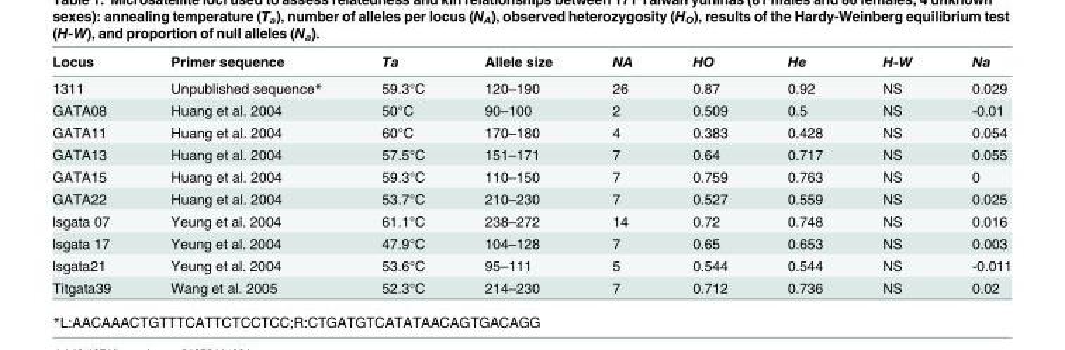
<table><thead><tr><td>Locus</td><td>Primer sequence</td><td>Ta</td><td>Allele size</td><td>NA</td><td>HO</td><td>He</td><td>H-W</td><td>Na</td></tr></thead><tbody><tr><td>1311</td><td>Unpublished sequence*</td><td>59.3°C</td><td>120–190</td><td>26</td><td>0.87</td><td>0.92</td><td>NS</td><td>0.029</td></tr><tr><td>GATA08</td><td>Huang et al. 2004</td><td>50°C</td><td>90–100</td><td>2</td><td>0.509</td><td>0.5</td><td>NS</td><td>-0.01</td></tr><tr><td>GATA11</td><td>Huang et al. 2004</td><td>60°C</td><td>170–180</td><td>4</td><td>0.383</td><td>0.428</td><td>NS</td><td>0.054</td></tr><tr><td>GATA13</td><td>Huang et al. 2004</td><td>57.5°C</td><td>151–171</td><td>7</td><td>0.64</td><td>0.717</td><td>NS</td><td>0.055</td></tr><tr><td>GATA15</td><td>Huang et al. 2004</td><td>59.3°C</td><td>110–150</td><td>7</td><td>0.759</td><td>0.763</td><td>NS</td><td>0</td></tr><tr><td>GATA22</td><td>Huang et al. 2004</td><td>53.7°C</td><td>210–230</td><td>7</td><td>0.527</td><td>0.559</td><td>NS</td><td>0.025</td></tr><tr><td>lsgata 07</td><td>Yeung et al. 2004</td><td>61.1°C</td><td>238–272</td><td>14</td><td>0.72</td><td>0.748</td><td>NS</td><td>0.016</td></tr><tr><td>lsgata 17</td><td>Yeung et al. 2004</td><td>47.9°C</td><td>104–128</td><td>7</td><td>0.65</td><td>0.653</td><td>NS</td><td>0.003</td></tr><tr><td>lsgata21</td><td>Yeung et al. 2004</td><td>53.6°C</td><td>95–111</td><td>5</td><td>0.544</td><td>0.544</td><td>NS</td><td>-0.011</td></tr><tr><td>Titgata39</td><td>Wang et al. 2005</td><td>52.3°C</td><td>214–230</td><td>7</td><td>0.712</td><td>0.736</td><td>NS</td><td>0.02</td></tr></tbody></table>